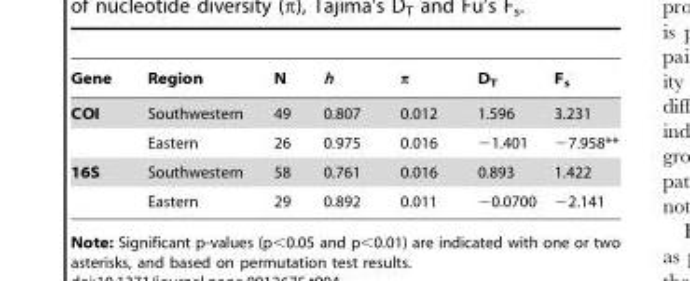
<table><thead><tr><td>Gene</td><td>Region</td><td>N</td><td>h</td><td>π</td><td>D<sub>T</sub></td><td>F<sub>s</sub></td></tr></thead><tbody><tr><td rowspan="2">COI</td><td>Southwestern</td><td>49</td><td>0.807</td><td>0.012</td><td>1.596</td><td>3.231</td></tr><tr><td>Eastern</td><td>26</td><td>0.975</td><td>0.016</td><td>−1.401</td><td>−7.958**</td></tr><tr><td rowspan="2">16S</td><td>Southwestern</td><td>58</td><td>0.761</td><td>0.016</td><td>0.893</td><td>1.422</td></tr><tr><td>Eastern</td><td>29</td><td>0.892</td><td>0.011</td><td>−0.0700</td><td>−2.141</td></tr></tbody></table>